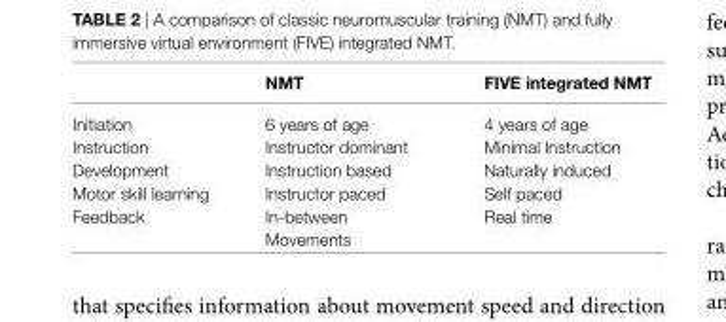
<table><thead><tr><td></td><td>NMt</td><td>Five integrated NMt</td></tr></thead><tbody><tr><td>Initiation</td><td>6 years of age</td><td>4 years of age</td></tr><tr><td>Instruction</td><td>Instructor dominant</td><td>Minimal Instruction</td></tr><tr><td>Development</td><td>Instruction based</td><td>Naturally induced</td></tr><tr><td>Motor skill learning</td><td>Instructor paced</td><td>Self paced</td></tr><tr><td rowspan="2">Feedback</td><td>In-between</td><td rowspan="2">Real time</td></tr><tr><td>Movements</td></tr></tbody></table>